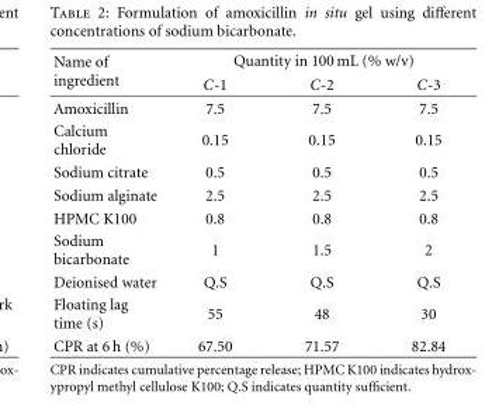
<table><thead><tr><td rowspan="2">Name of ingredient</td><td colspan="3">Quantity in 100 mL (% w/v)</td></tr><tr><td>C-1</td><td>C-2</td><td>C-3</td></tr></thead><tbody><tr><td>Amoxicillin</td><td>7.5</td><td>7.5</td><td>7.5</td></tr><tr><td>Calcium chloride</td><td>0.15</td><td>0.15</td><td>0.15</td></tr><tr><td>Sodium citrate</td><td>0.5</td><td>0.5</td><td>0.5</td></tr><tr><td>Sodium alginate</td><td>2.5</td><td>2.5</td><td>2.5</td></tr><tr><td>HPMC K100</td><td>0.8</td><td>0.8</td><td>0.8</td></tr><tr><td>Sodium bicarbonate</td><td>1</td><td>1.5</td><td>2</td></tr><tr><td>Deionised water</td><td>Q.S</td><td>Q.S</td><td>Q.S</td></tr><tr><td>Floating lag time (s)</td><td>55</td><td>48</td><td>30</td></tr><tr><td>CPR at 6 h (%)</td><td>67.50</td><td>71.57</td><td>82.84</td></tr></tbody></table>